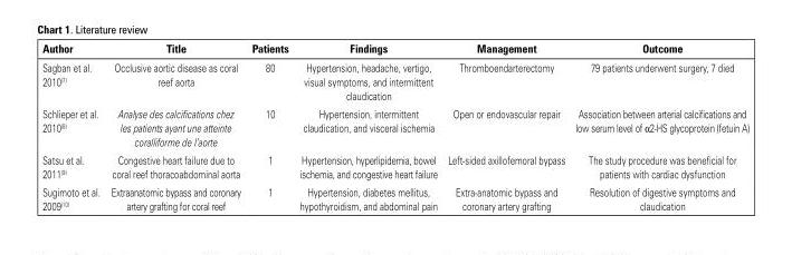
<table><thead><tr><td>Author</td><td>Title</td><td>Patients</td><td>Findings</td><td>Management</td><td>Outcome</td></tr></thead><tbody><tr><td>Sagban et al. 2010<sup>(7)</sup></td><td>Occlusive aortic disease as coral reef aorta</td><td>80</td><td>Hypertension, headache, vertigo, visual symptoms, and intermittent claudication</td><td>Thromboendarterectomy</td><td>79 patients underwent surgery, 7 died</td></tr><tr><td>Schlieper et al. 2010<sup>(8)</sup></td><td>Analyse des calcifications chez les patients ayant une atteinte coralliforme de l’aorte</td><td>10</td><td>Hypertension, intermittent claudication, and visceral ischemia</td><td>Open or endovascular repair</td><td>Association between arterial calcifications and low serum level of α2-HS glycoprotein (fetuin A)</td></tr><tr><td>Satsu et al. 2011<sup>(9)</sup></td><td>Congestive heart failure due to coral reef thoracoabdominal aorta</td><td>1</td><td>Hypertension, hyperlipidemia, bowel ischemia, and congestive heart failure</td><td>Left-sided axillofemoral bypass</td><td>The study procedure was beneficial for patients with cardiac dysfunction</td></tr><tr><td>Sugimoto et al. 2009<sup>(10)</sup></td><td>Extraanatomic bypass and coronary artery grafting for coral reef</td><td>1</td><td>Hypertension, diabetes mellitus, hypothyroidism, and abdominal pain</td><td>Extra-anatomic bypass and coronary artery grafting</td><td>Resolution of digestive symptoms and claudication</td></tr></tbody></table>